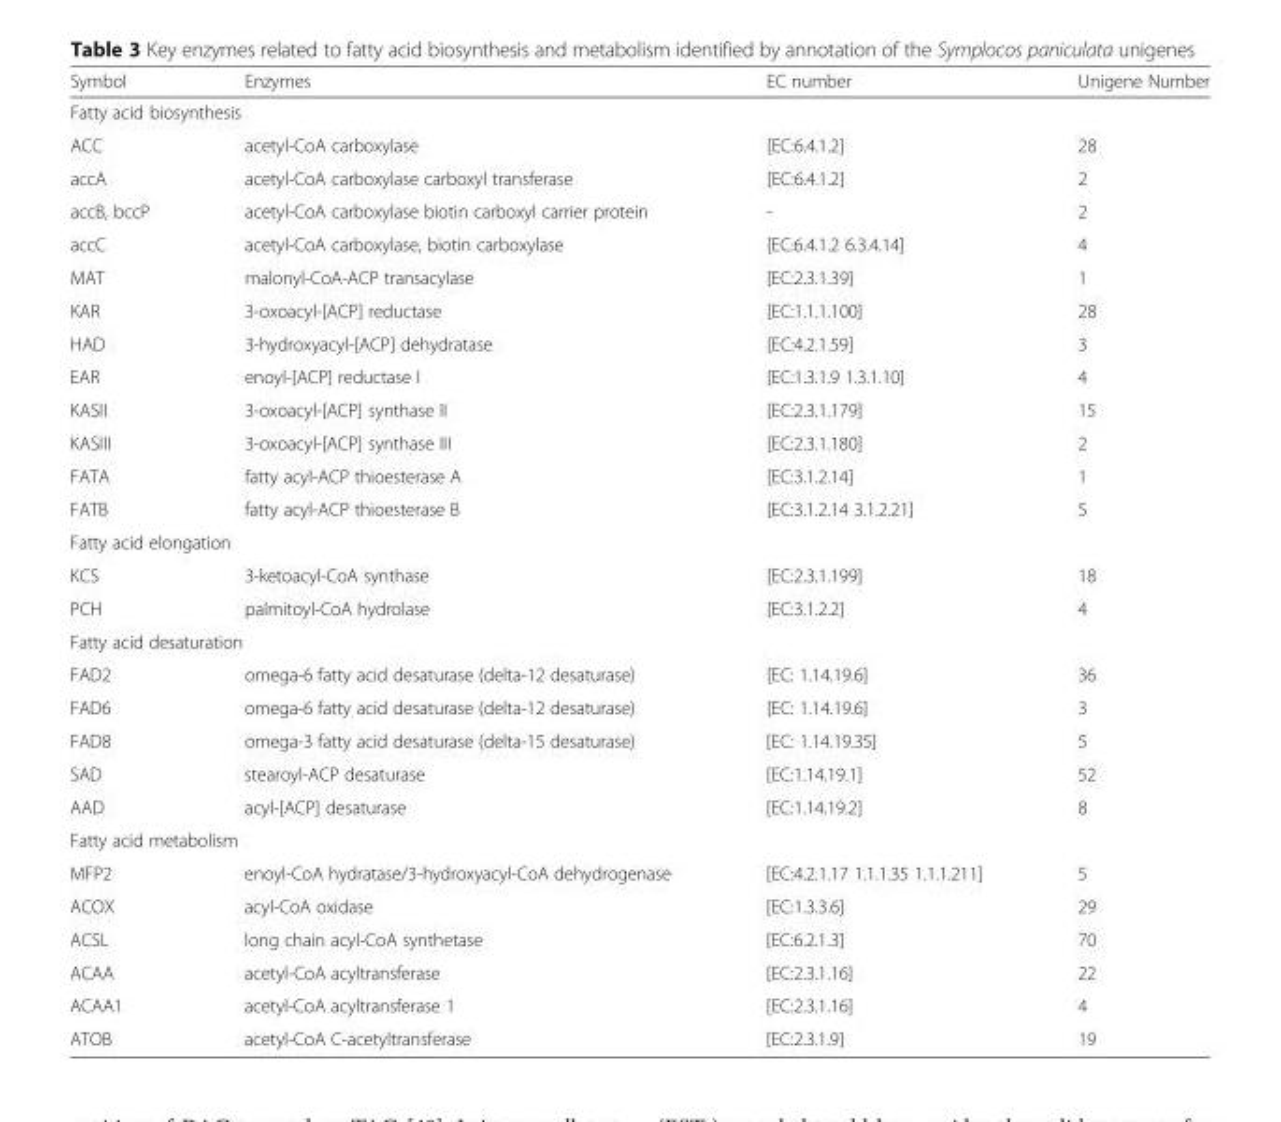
<table><thead><tr><td>Symbol</td><td>Enzymes</td><td>EC number</td><td>Unigene Number</td></tr></thead><tbody><tr><td colspan="4">Fatty acid biosynthesis</td></tr><tr><td>ACC</td><td>acetyl-CoA carboxylase</td><td>[EC:6.4.1.2]</td><td>28</td></tr><tr><td>accA</td><td>acetyl-CoA carboxylase carboxyl transferase</td><td>[EC:6.4.1.2]</td><td>2</td></tr><tr><td>accB, bccP</td><td>acetyl-CoA carboxylase biotin carboxyl carrier protein</td><td>-</td><td>2</td></tr><tr><td>accC</td><td>acetyl-CoA carboxylase, biotin carboxylase</td><td>[EC:6.4.1.2 6.3.4.14]</td><td>4</td></tr><tr><td>MAT</td><td>malonyl-CoA-ACP transacylase</td><td>[EC:2.3.1.39]</td><td>1</td></tr><tr><td>KAR</td><td>3-oxoacyl-[ACP] reductase</td><td>[EC:1.1.1.100]</td><td>28</td></tr><tr><td>HAD</td><td>3-hydroxyacyl-[ACP] dehydratase</td><td>[EC:4.2.1.59]</td><td>3</td></tr><tr><td>EAR</td><td>enoyl-[ACP] reductase I</td><td>[EC:1.3.1.9 1.3.1.10]</td><td>4</td></tr><tr><td>KASII</td><td>3-oxoacyl-[ACP] synthase II</td><td>[EC:2.3.1.179]</td><td>15</td></tr><tr><td>KASIII</td><td>3-oxoacyl-[ACP] synthase III</td><td>[EC:2.3.1.180]</td><td>2</td></tr><tr><td>FATA</td><td>fatty acyl-ACP thioesterase A</td><td>[EC:3.1.2.14]</td><td>1</td></tr><tr><td>FATB</td><td>fatty acyl-ACP thioesterase B</td><td>[EC:3.1.2.14 3.1.2.21]</td><td>5</td></tr><tr><td colspan="4">Fatty acid elongation</td></tr><tr><td>KCS</td><td>3-ketoacyl-CoA synthase</td><td>[EC:2.3.1.199]</td><td>18</td></tr><tr><td>PCH</td><td>palmitoyl-CoA hydrolase</td><td>[EC:3.1.2.2]</td><td>4</td></tr><tr><td colspan="4">Fatty acid desaturation</td></tr><tr><td>FAD2</td><td>omega-6 fatty acid desaturase (delta-12 desaturase)</td><td>[EC: 1.14.19.6]</td><td>36</td></tr><tr><td>FAD6</td><td>omega-6 fatty acid desaturase (delta-12 desaturase)</td><td>[EC: 1.14.19.6]</td><td>3</td></tr><tr><td>FAD8</td><td>omega-3 fatty acid desaturase (delta-15 desaturase)</td><td>[EC: 1.14.19.35]</td><td>5</td></tr><tr><td>SAD</td><td>stearoyl-ACP desaturase</td><td>[EC:1.14.19.1]</td><td>52</td></tr><tr><td>AAD</td><td>acyl-[ACP] desaturase</td><td>[EC:1.14.19.2]</td><td>8</td></tr><tr><td colspan="4">Fatty acid metabolism</td></tr><tr><td>MFP2</td><td>enoyl-CoA hydratase/3-hydroxyacyl-CoA dehydrogenase</td><td>[EC:4.2.1.17 1.1.1.35 1.1.1.211]</td><td>5</td></tr><tr><td>ACOX</td><td>acyl-CoA oxidase</td><td>[EC:1.3.3.6]</td><td>29</td></tr><tr><td>ACSL</td><td>long chain acyl-CoA synthetase</td><td>[EC:6.2.1.3]</td><td>70</td></tr><tr><td>ACAA</td><td>acetyl-CoA acyltransferase</td><td>[EC:2.3.1.16]</td><td>22</td></tr><tr><td>ACAA1</td><td>acetyl-CoA acyltransferase 1</td><td>[EC:2.3.1.16]</td><td>4</td></tr><tr><td>ATOB</td><td>acetyl-CoA C-acetyltransferase</td><td>[EC:2.3.1.9]</td><td>19</td></tr></tbody></table>